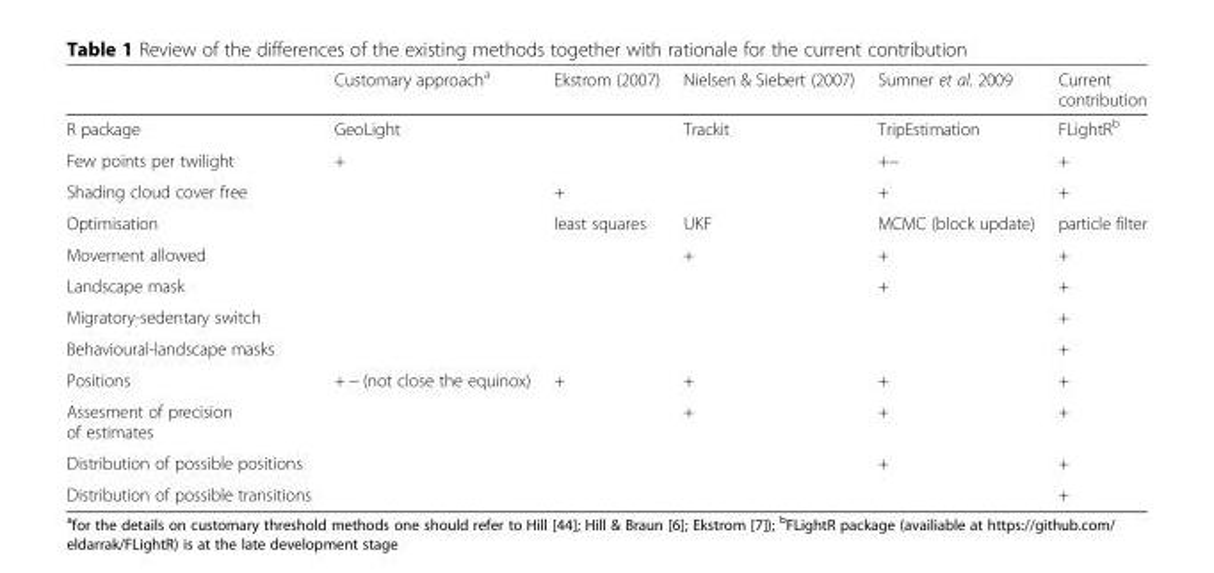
<table><thead><tr><td></td><td>Customary approach<sup>a</sup></td><td>Ekstrom (2007)</td><td>Nielsen &amp; Siebert (2007)</td><td>Sumner et al. 2009</td><td>Current contribution</td></tr></thead><tbody><tr><td>R package</td><td>GeoLight</td><td></td><td>Trackit</td><td>TripEstimation</td><td>FLightR<sup>b</sup></td></tr><tr><td>Few points per twilight</td><td>+</td><td></td><td></td><td>+−</td><td>+</td></tr><tr><td>Shading cloud cover free</td><td></td><td>+</td><td></td><td>+</td><td>+</td></tr><tr><td>Optimisation</td><td></td><td>least squares</td><td>UKF</td><td>MCMC (block update)</td><td>particle filter</td></tr><tr><td>Movement allowed</td><td></td><td></td><td>+</td><td>+</td><td>+</td></tr><tr><td>Landscape mask</td><td></td><td></td><td></td><td>+</td><td>+</td></tr><tr><td>Migratory-sedentary switch</td><td></td><td></td><td></td><td></td><td>+</td></tr><tr><td>Behavioural-landscape masks</td><td></td><td></td><td></td><td></td><td>+</td></tr><tr><td>Positions</td><td>+ − (not close the equinox)</td><td>+</td><td>+</td><td>+</td><td>+</td></tr><tr><td>Assesment of precision of estimates</td><td></td><td></td><td>+</td><td>+</td><td>+</td></tr><tr><td>Distribution of possible positions</td><td></td><td></td><td></td><td>+</td><td>+</td></tr><tr><td>Distribution of possible transitions</td><td></td><td></td><td></td><td></td><td>+</td></tr></tbody></table>